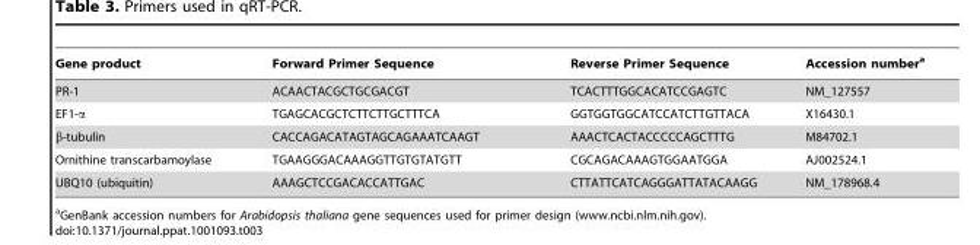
<table><thead><tr><td>Gene product</td><td>Forward Primer Sequence</td><td>Reverse Primer Sequence</td><td>Accession number<sup>a</sup></td></tr></thead><tbody><tr><td>PR-1</td><td>ACAACTACGCTGCGACGT</td><td>TCACTTTGGCACATCCGAGTC</td><td>NM_127557</td></tr><tr><td>EF1-α</td><td>TGAGCACGCTCTTCTTGCTTTCA</td><td>GGTGGTGGCATCCATCTTGTTACA</td><td>X16430.1</td></tr><tr><td>β-tubulin</td><td>CACCAGACATAGTAGCAGAAATCAAGT</td><td>AAACTCACTACCCCCAGCTTTG</td><td>M84702.1</td></tr><tr><td>Ornithine transcarbamoylase</td><td>TGAAGGGACAAAGGTTGTGTATGTT</td><td>CGCAGACAAAGTGGAATGGA</td><td>AJ002524.1</td></tr><tr><td>UBQ10 (ubiquitin)</td><td>AAAGCTCCGACACCATTGAC</td><td>CTTATTCATCAGGGATTATACAAGG</td><td>NM_178968.4</td></tr></tbody></table>